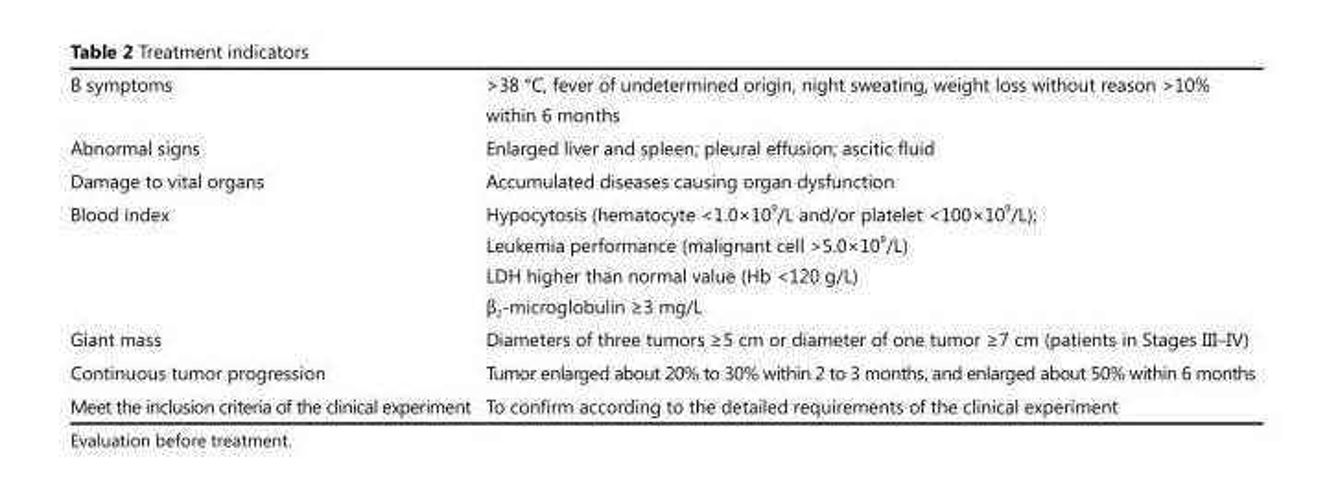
<table><tbody><tr><td>B symptoms</td><td>&gt;38 °C, fever of undetermined origin, night sweating, weight loss without reason &gt;10% within 6 months</td></tr><tr><td>Abnormal signs</td><td>Enlarged liver and spleen; pleural effusion; ascitic fluid</td></tr><tr><td>damage to vital organs</td><td>Accumulated diseases causing organ dysfunction</td></tr><tr><td rowspan="4">Blood index</td><td>Hypocytosis (hematocyte &lt;1.0×10 <sup>9</sup>/l and/or platelet &lt;100×10 <sup>9</sup>/l);</td></tr><tr><td>leukemia performance (malignant cell &gt;5.0×10 <sup>9</sup>/l)</td></tr><tr><td>ldH higher than normal value (Hb &lt;120 g/l)</td></tr><tr><td>β<sub>2</sub>-microglobulin ≥3 mg/L</td></tr><tr><td>Giant mass</td><td>Diameters of three tumors ≥5 cm or diameter of one tumor ≥7 cm (patients in Stages III–IV)</td></tr><tr><td>Continuous tumor progression</td><td>tumor enlarged about 20% to 30% within 2 to 3 months, and enlarged about 50% within 6 months</td></tr><tr><td>Meet the inclusion criteria of the clinical experiment</td><td>To confirm according to the detailed requirements of the clinical experiment</td></tr></tbody></table>